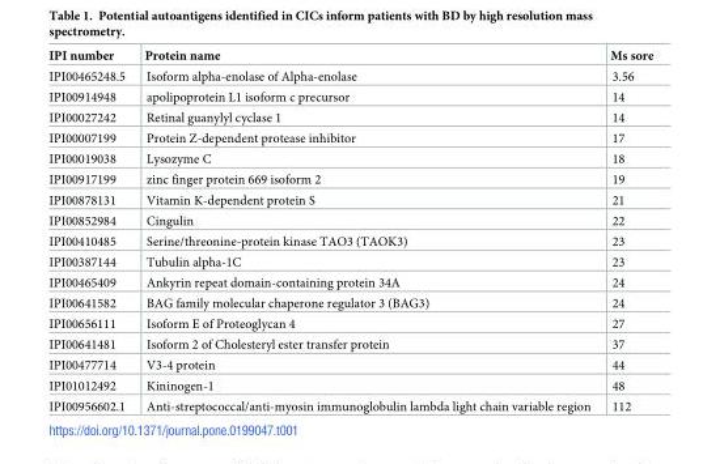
<table><thead><tr><td>IPI number</td><td>Protein name</td><td>Ms sore</td></tr></thead><tbody><tr><td>IPI00465248.5</td><td>Isoform alpha-enolase of Alpha-enolase</td><td>3.56</td></tr><tr><td>IPI00914948</td><td>apolipoprotein L1 isoform c precursor</td><td>14</td></tr><tr><td>IPI00027242</td><td>Retinal guanylyl cyclase 1</td><td>14</td></tr><tr><td>IPI00007199</td><td>Protein Z-dependent protease inhibitor</td><td>17</td></tr><tr><td>IPI00019038</td><td>Lysozyme C</td><td>18</td></tr><tr><td>IPI00917199</td><td>zinc finger protein 669 isoform 2</td><td>19</td></tr><tr><td>IPI00878131</td><td>Vitamin K-dependent protein S</td><td>21</td></tr><tr><td>IPI00852984</td><td>Cingulin</td><td>22</td></tr><tr><td>IPI00410485</td><td>Serine/threonine-protein kinase TAO3 (TAOK3)</td><td>23</td></tr><tr><td>IPI00387144</td><td>Tubulin alpha-1C</td><td>23</td></tr><tr><td>IPI00465409</td><td>Ankyrin repeat domain-containing protein 34A</td><td>24</td></tr><tr><td>IPI00641582</td><td>BAG family molecular chaperone regulator 3 (BAG3)</td><td>24</td></tr><tr><td>IPI00656111</td><td>Isoform E of Proteoglycan 4</td><td>27</td></tr><tr><td>IPI00641481</td><td>Isoform 2 of Cholesteryl ester transfer protein</td><td>37</td></tr><tr><td>IPI00477714</td><td>V3-4 protein</td><td>44</td></tr><tr><td>IPI01012492</td><td>Kininogen-1</td><td>48</td></tr><tr><td>IPI00956602.1</td><td>Anti-streptococcal/anti-myosin immunoglobulin lambda light chain variable region</td><td>112</td></tr></tbody></table>